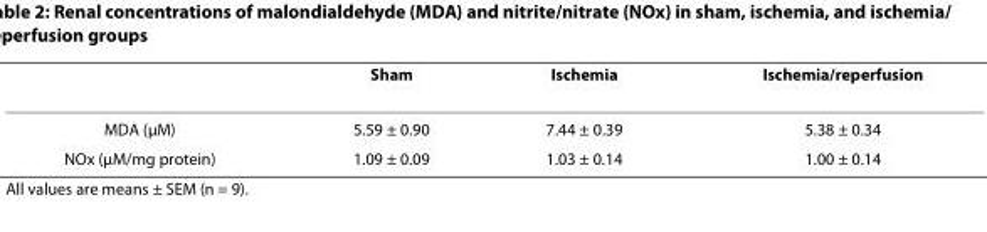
<table><thead><tr><td></td><td>Sham</td><td>Ischemia</td><td>Ischemia/reperfusion</td></tr></thead><tbody><tr><td>MDA (μM)</td><td>5.59 ± 0.90</td><td>7.44 ± 0.39</td><td>5.38 ± 0.34</td></tr><tr><td>NOx (μM/mg protein)</td><td>1.09 ± 0.09</td><td>1.03 ± 0.14</td><td>1.00 ± 0.14</td></tr></tbody></table>